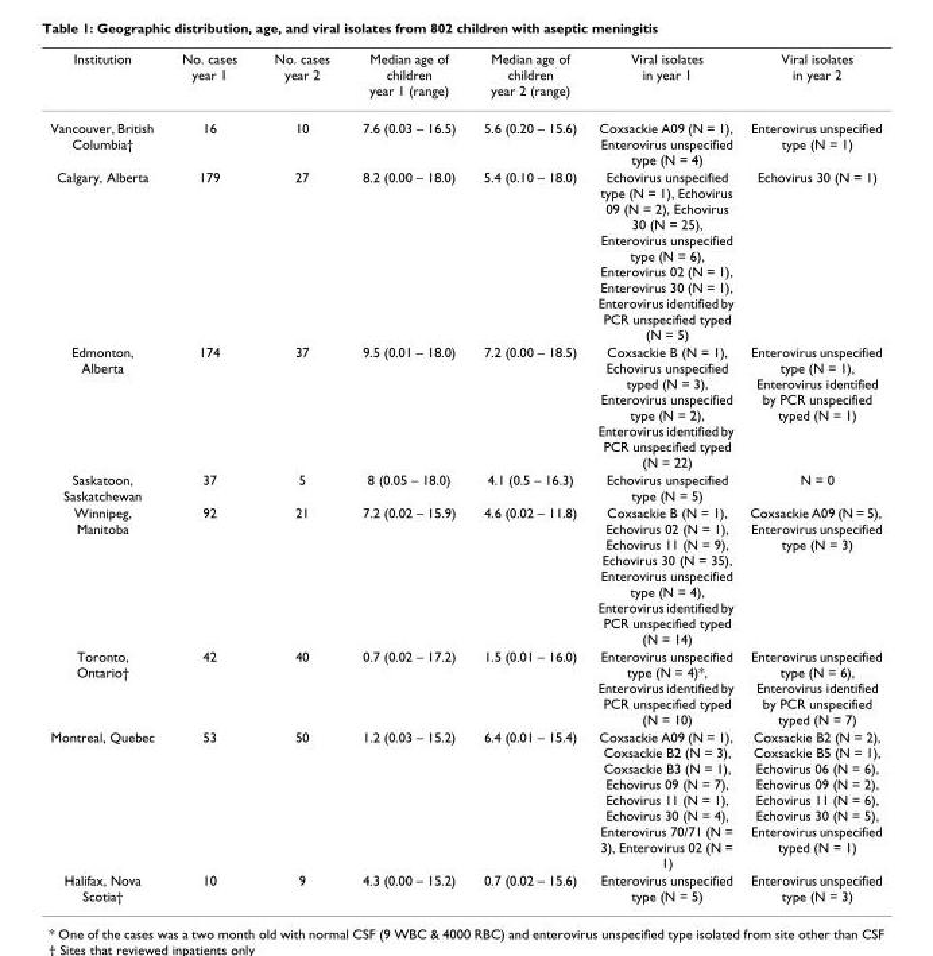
<table><thead><tr><td>Institution</td><td>No. cases year 1</td><td>No. cases year 2</td><td>Median age of children year 1 (range)</td><td>Median age of children year 2 (range)</td><td>Viral isolates in year 1</td><td>Viral isolates in year 2</td></tr></thead><tbody><tr><td>Vancouver, British Columbia†</td><td>16</td><td>10</td><td>7.6 (0.03 – 16.5)</td><td>5.6 (0.20 – 15.6)</td><td>Coxsackie A09 (N = 1), Enterovirus unspecified type (N = 4)</td><td>Enterovirus unspecified type (N = 1)</td></tr><tr><td>Calgary, Alberta</td><td>179</td><td>27</td><td>8.2 (0.00 – 18.0)</td><td>5.4 (0.10 – 18.0)</td><td>Echovirus unspecified type (N = 1), Echovirus 09 (N = 2), Echovirus 30 (N = 25), Enterovirus unspecified type (N = 6), Enterovirus 02 (N = 1), Enterovirus 30 (N = 1), Enterovirus identified by PCR unspecified typed (N = 5)</td><td>Echovirus 30 (N = 1)</td></tr><tr><td>Edmonton, Alberta</td><td>174</td><td>37</td><td>9.5 (0.01 – 18.0)</td><td>7.2 (0.00 – 18.5)</td><td>Coxsackie B (N = 1), Echovirus unspecified typed (N = 3), Enterovirus unspecified type (N = 2), Enterovirus identified by PCR unspecified typed (N = 22)</td><td>Enterovirus unspecified type (N = 1), Enterovirus identified by PCR unspecified typed (N = 1)</td></tr><tr><td>Saskatoon, Saskatchewan</td><td>37</td><td>5</td><td>8 (0.05 – 18.0)</td><td>4.1 (0.5 – 16.3)</td><td>Echovirus unspecified type (N = 5)</td><td>N = 0</td></tr><tr><td>Winnipeg, Manitoba</td><td>92</td><td>21</td><td>7.2 (0.02 – 15.9)</td><td>4.6 (0.02 – 11.8)</td><td>Coxsackie B (N = 1), Echovirus 02 (N = 1), Echovirus 11 (N = 9), Echovirus 30 (N = 35), Enterovirus unspecified type (N = 4), Enterovirus identified by PCR unspecified typed (N = 14)</td><td>Coxsackie A09 (N = 5), Enterovirus unspecified type (N = 3)</td></tr><tr><td>Toronto, Ontario†</td><td>42</td><td>40</td><td>0.7 (0.02 – 17.2)</td><td>1.5 (0.01 – 16.0)</td><td>Enterovirus unspecified type (N = 4)*, Enterovirus identified by PCR unspecified typed (N = 10)</td><td>Enterovirus unspecified type (N = 6), Enterovirus identified by PCR unspecified typed (N = 7)</td></tr><tr><td>Montreal, Quebec</td><td>53</td><td>50</td><td>1.2 (0.03 – 15.2)</td><td>6.4 (0.01 – 15.4)</td><td>Coxsackie A09 (N = 1), Coxsackie B2 (N = 3), Coxsackie B3 (N = 1), Echovirus 09 (N = 7), Echovirus 11 (N = 1), Echovirus 30 (N = 4), Enterovirus 70/71 (N = 3), Enterovirus 02 (N = 1)</td><td>Coxsackie B2 (N = 2), Coxsackie B5 (N = 1), Echovirus 06 (N = 6), Echovirus 09 (N = 2), Echovirus 11 (N = 6), Echovirus 30 (N = 5), Enterovirus unspecified typed (N = 1)</td></tr><tr><td>Halifax, Nova Scotia†</td><td>10</td><td>9</td><td>4.3 (0.00 – 15.2)</td><td>0.7 (0.02 – 15.6)</td><td>Enterovirus unspecified type (N = 5)</td><td>Enterovirus unspecified type (N = 3)</td></tr></tbody></table>